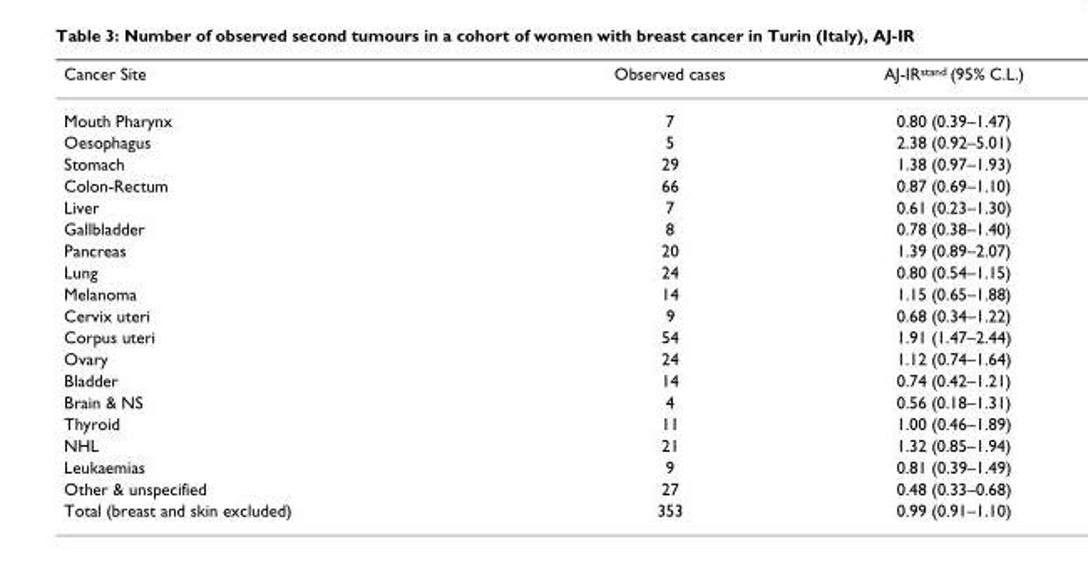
<table><thead><tr><td>Cancer Site</td><td>Observed cases</td><td>AJ-IR<sup>stand</sup> (95% C.L.)</td></tr></thead><tbody><tr><td>Mouth Pharynx</td><td>7</td><td>0.80 (0.39–1.47)</td></tr><tr><td>Oesophagus</td><td>5</td><td>2.38 (0.92–5.01)</td></tr><tr><td>Stomach</td><td>29</td><td>1.38 (0.97–1.93)</td></tr><tr><td>Colon-Rectum</td><td>66</td><td>0.87 (0.69–1.10)</td></tr><tr><td>Liver</td><td>7</td><td>0.61 (0.23–1.30)</td></tr><tr><td>Gallbladder</td><td>8</td><td>0.78 (0.38–1.40)</td></tr><tr><td>Pancreas</td><td>20</td><td>1.39 (0.89–2.07)</td></tr><tr><td>Lung</td><td>24</td><td>0.80 (0.54–1.15)</td></tr><tr><td>Melanoma</td><td>14</td><td>1.15 (0.65–1.88)</td></tr><tr><td>Cervix uteri</td><td>9</td><td>0.68 (0.34–1.22)</td></tr><tr><td>Corpus uteri</td><td>54</td><td>1.91 (1.47–2.44)</td></tr><tr><td>Ovary</td><td>24</td><td>1.12 (0.74–1.64)</td></tr><tr><td>Bladder</td><td>14</td><td>0.74 (0.42–1.21)</td></tr><tr><td>Brain &amp; NS</td><td>4</td><td>0.56 (0.18–1.31)</td></tr><tr><td>Thyroid</td><td>11</td><td>1.00 (0.46–1.89)</td></tr><tr><td>NHL</td><td>21</td><td>1.32 (0.85–1.94)</td></tr><tr><td>Leukaemias</td><td>9</td><td>0.81 (0.39–1.49)</td></tr><tr><td>Other &amp; unspecified</td><td>27</td><td>0.48 (0.33–0.68)</td></tr><tr><td>Total (breast and skin excluded)</td><td>353</td><td>0.99 (0.91–1.10)</td></tr></tbody></table>